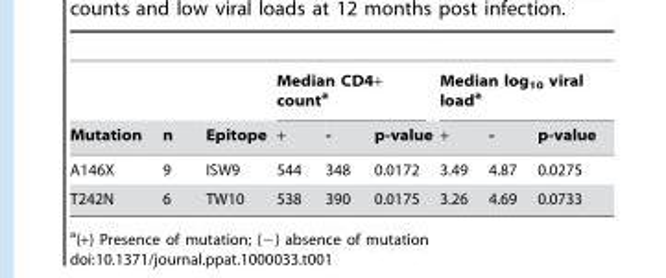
<table><thead><tr><td rowspan="2">Mutation</td><td rowspan="2">n</td><td rowspan="2">Epitope</td><td colspan="3">Median CD4+ count<sup>a</sup></td><td colspan="3">Median log<sub>10</sub> viral load<sup>a</sup></td></tr><tr><td>+</td><td>-</td><td>p-value</td><td>+</td><td>-</td><td>p-value</td></tr></thead><tbody><tr><td>A146X</td><td>9</td><td>ISW9</td><td>544</td><td>348</td><td>0.0172</td><td>3.49</td><td>4.87</td><td>0.0275</td></tr><tr><td>T242N</td><td>6</td><td>TW10</td><td>538</td><td>390</td><td>0.0175</td><td>3.26</td><td>4.69</td><td>0.0733</td></tr></tbody></table>